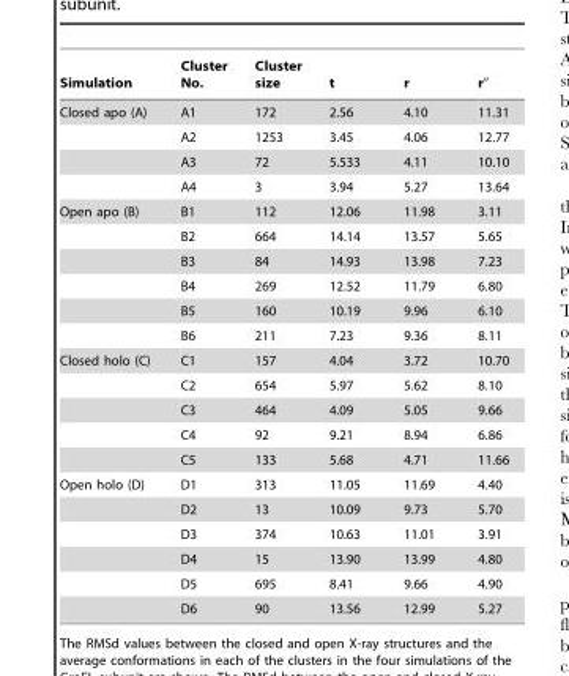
<table><thead><tr><td>Simulation</td><td>Cluster No.</td><td>Cluster size</td><td>t</td><td>r</td><td>r″</td></tr></thead><tbody><tr><td rowspan="4">Closed apo (A)</td><td>A1</td><td>172</td><td>2.56</td><td>4.10</td><td>11.31</td></tr><tr><td>A2</td><td>1253</td><td>3.45</td><td>4.06</td><td>12.77</td></tr><tr><td>A3</td><td>72</td><td>5.533</td><td>4.11</td><td>10.10</td></tr><tr><td>A4</td><td>3</td><td>3.94</td><td>5.27</td><td>13.64</td></tr><tr><td rowspan="6">Open apo (B)</td><td>B1</td><td>112</td><td>12.06</td><td>11.98</td><td>3.11</td></tr><tr><td>B2</td><td>664</td><td>14.14</td><td>13.57</td><td>5.65</td></tr><tr><td>B3</td><td>84</td><td>14.93</td><td>13.98</td><td>7.23</td></tr><tr><td>B4</td><td>269</td><td>12.52</td><td>11.79</td><td>6.80</td></tr><tr><td>B5</td><td>160</td><td>10.19</td><td>9.96</td><td>6.10</td></tr><tr><td>B6</td><td>211</td><td>7.23</td><td>9.36</td><td>8.11</td></tr><tr><td rowspan="5">Closed holo (C)</td><td>C1</td><td>157</td><td>4.04</td><td>3.72</td><td>10.70</td></tr><tr><td>C2</td><td>654</td><td>5.97</td><td>5.62</td><td>8.10</td></tr><tr><td>C3</td><td>464</td><td>4.09</td><td>5.05</td><td>9.66</td></tr><tr><td>C4</td><td>92</td><td>9.21</td><td>8.94</td><td>6.86</td></tr><tr><td>C5</td><td>133</td><td>5.68</td><td>4.71</td><td>11.66</td></tr><tr><td rowspan="6">Open holo (D)</td><td>D1</td><td>313</td><td>11.05</td><td>11.69</td><td>4.40</td></tr><tr><td>D2</td><td>13</td><td>10.09</td><td>9.73</td><td>5.70</td></tr><tr><td>D3</td><td>374</td><td>10.63</td><td>11.01</td><td>3.91</td></tr><tr><td>D4</td><td>15</td><td>13.90</td><td>13.99</td><td>4.80</td></tr><tr><td>D5</td><td>695</td><td>8.41</td><td>9.66</td><td>4.90</td></tr><tr><td>D6</td><td>90</td><td>13.56</td><td>12.99</td><td>5.27</td></tr></tbody></table>